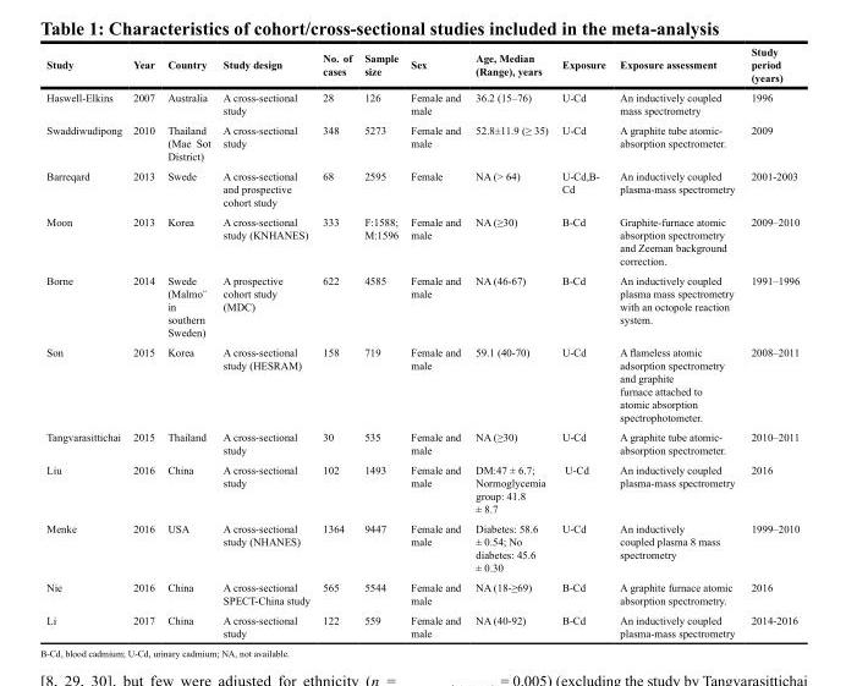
<table><thead><tr><td>Study</td><td>Year</td><td>Country</td><td>Study design</td><td>No. of cases</td><td>Sample size</td><td>Sex</td><td>Age, Median (Range), years</td><td>Exposure</td><td>Exposure assessment</td><td>Study period (years)</td></tr></thead><tbody><tr><td>Haswell-Elkins</td><td>2007</td><td>Australia</td><td>A cross-sectional study</td><td>28</td><td>126</td><td>Female and male</td><td>36.2 (15–76)</td><td>U-Cd</td><td>An inductively coupled mass spectrometry</td><td>1996</td></tr><tr><td>Swaddiwudipong</td><td>2010</td><td>Thailand (Mae Sot District)</td><td>A cross-sectional study</td><td>348</td><td>5273</td><td>Female and male</td><td>52.8±11.9 (≥ 35)</td><td>U-Cd</td><td>A graphite tube atomic- absorption spectrometer.</td><td>2009</td></tr><tr><td>Barreqard</td><td>2013</td><td>Swede</td><td>A cross-sectional and prospective cohort study</td><td>68</td><td>2595</td><td>Female</td><td>NA (&gt; 64)</td><td>U-Cd,B- Cd</td><td>An inductively coupled plasma-mass spectrometry</td><td>2001-2003</td></tr><tr><td>Moon</td><td>2013</td><td>Korea</td><td>A cross-sectional study (KNHANES)</td><td>333</td><td>F:1588; M:1596</td><td>Female and male</td><td>NA (≥30)</td><td>B-Cd</td><td>Graphite-furnace atomic absorption spectrometry and Zeeman background correction.</td><td>2009–2010</td></tr><tr><td>Borne</td><td>2014</td><td>Swede (Malmo¨ in southern Sweden)</td><td>A prospective cohort study (MDC)</td><td>622</td><td>4585</td><td>Female and male</td><td>NA (46-67)</td><td>B-Cd</td><td>An inductively coupled plasma mass spectrometry with an octopole reaction system.</td><td>1991–1996</td></tr><tr><td>Son</td><td>2015</td><td>Korea</td><td>A cross-sectional study (HESRAM)</td><td>158</td><td>719</td><td>Female and male</td><td>59.1 (40-70)</td><td>U-Cd</td><td>A flameless atomic adsorption spectrometry and graphite furnace attached to atomic absorption spectrophotometer.</td><td>2008–2011</td></tr><tr><td>Tangvarasittichai</td><td>2015</td><td>Thailand</td><td>A cross-sectional study</td><td>30</td><td>535</td><td>Female and male</td><td>NA (≥30)</td><td>U-Cd</td><td>A graphite tube atomic- absorption spectrometer.</td><td>2010–2011</td></tr><tr><td>Liu</td><td>2016</td><td>China</td><td>A cross-sectional study</td><td>102</td><td>1493</td><td>Female and male</td><td>DM:47 ± 6.7; Normoglycemia group: 41.8 ± 8.7</td><td>U-Cd</td><td>An inductively coupled plasma-mass spectrometry</td><td>2016</td></tr><tr><td>Menke</td><td>2016</td><td>USA</td><td>A cross-sectional study (NHANES)</td><td>1364</td><td>9447</td><td>Female and male</td><td>Diabetes: 58.6 ± 0.54; No diabetes: 45.6 ± 0.30</td><td>U-Cd</td><td>An inductively coupled plasma 8 mass spectrometry</td><td>1999–2010</td></tr><tr><td>Nie</td><td>2016</td><td>China</td><td>A cross-sectional SPECT-China study</td><td>565</td><td>5544</td><td>Female and male</td><td>NA (18-≥69)</td><td>B-Cd</td><td>A graphite furnace atomic absorption spectrometry.</td><td>2016</td></tr><tr><td>Li</td><td>2017</td><td>China</td><td>A cross-sectional study</td><td>122</td><td>559</td><td>Female and male</td><td>NA (40-92)</td><td>B-Cd</td><td>An inductively coupled plasma-mass spectrometry</td><td>2014-2016</td></tr></tbody></table>